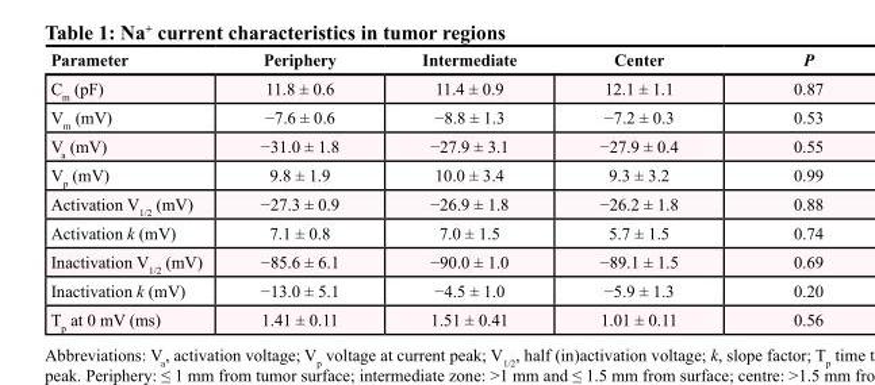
<table><thead><tr><td>Parameter</td><td>Periphery</td><td>Intermediate</td><td>Center</td><td>P</td></tr></thead><tbody><tr><td>C<sub>m</sub> (pF)</td><td>11.8 ± 0.6</td><td>11.4 ± 0.9</td><td>12.1 ± 1.1</td><td>0.87</td></tr><tr><td>V<sub>m</sub> (mV)</td><td>−7.6 ± 0.6</td><td>−8.8 ± 1.3</td><td>−7.2 ± 0.3</td><td>0.53</td></tr><tr><td>V<sub>a</sub> (mV)</td><td>−31.0 ± 1.8</td><td>−27.9 ± 3.1</td><td>−27.9 ± 0.4</td><td>0.55</td></tr><tr><td>V<sub>p</sub> (mV)</td><td>9.8 ± 1.9</td><td>10.0 ± 3.4</td><td>9.3 ± 3.2</td><td>0.99</td></tr><tr><td>Activation V<sub>1/2</sub> (mV)</td><td>−27.3 ± 0.9</td><td>−26.9 ± 1.8</td><td>−26.2 ± 1.8</td><td>0.88</td></tr><tr><td>Activation k (mV)</td><td>7.1 ± 0.8</td><td>7.0 ± 1.5</td><td>5.7 ± 1.5</td><td>0.74</td></tr><tr><td>Inactivation V<sub>1/2</sub> (mV)</td><td>−85.6 ± 6.1</td><td>−90.0 ± 1.0</td><td>−89.1 ± 1.5</td><td>0.69</td></tr><tr><td>Inactivation k (mV)</td><td>−13.0 ± 5.1</td><td>−4.5 ± 1.0</td><td>−5.9 ± 1.3</td><td>0.20</td></tr><tr><td>T<sub>p</sub> at 0 mV (ms)</td><td>1.41 ± 0.11</td><td>1.51 ± 0.41</td><td>1.01 ± 0.11</td><td>0.56</td></tr></tbody></table>